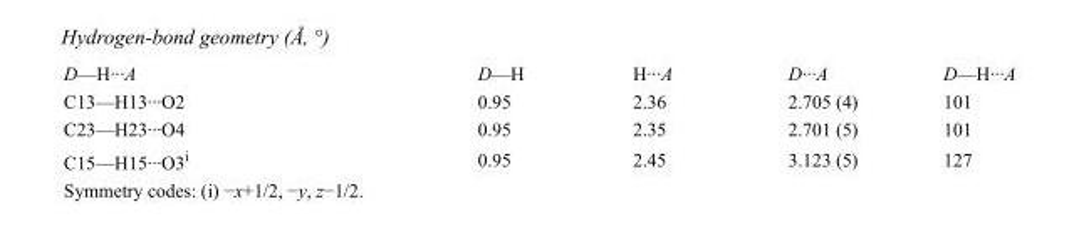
<table><tbody><tr><td>D—H···A</td><td>D—H</td><td>H···A</td><td>D···A</td><td>D—H···A</td></tr><tr><td>C13—H13···O2</td><td>0.95</td><td>2.36</td><td>2.705 (4)</td><td>101</td></tr><tr><td>C23—H23···O4</td><td>0.95</td><td>2.35</td><td>2.701 (5)</td><td>101</td></tr><tr><td>C15—H15···O3<sup>i</sup></td><td>0.95</td><td>2.45</td><td>3.123 (5)</td><td>127</td></tr></tbody></table>